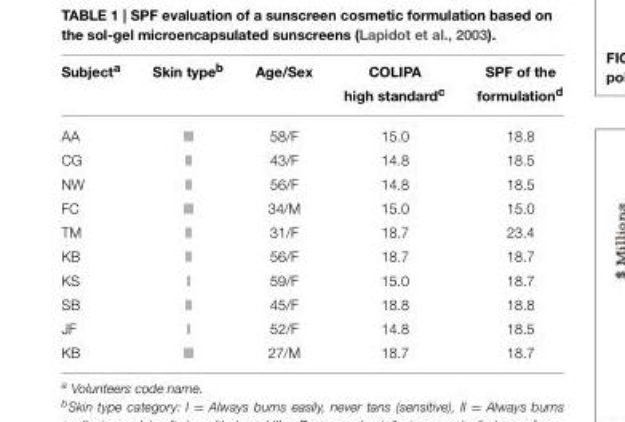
<table><thead><tr><td rowspan="2">Subject<sup>a</sup></td><td rowspan="2">Skin type<sup>b</sup></td><td rowspan="2">Age/Sex</td><td rowspan="2">COLIPA high standard<sup>c</sup></td><td rowspan="2">SPF of the formulation<sup>d</sup></td></tr><tr></tr></thead><tbody><tr><td>AA</td><td>III</td><td>58/F</td><td>15.0</td><td>18.8</td></tr><tr><td>CG</td><td>II</td><td>43/F</td><td>14.8</td><td>18.5</td></tr><tr><td>NW</td><td>II</td><td>56/F</td><td>14.8</td><td>18.5</td></tr><tr><td>FC</td><td>III</td><td>34/M</td><td>15.0</td><td>15.0</td></tr><tr><td>TM</td><td>II</td><td>31/F</td><td>18.7</td><td>23.4</td></tr><tr><td>KB</td><td>II</td><td>56/F</td><td>18.7</td><td>18.7</td></tr><tr><td>KS</td><td>I</td><td>59/F</td><td>15.0</td><td>18.7</td></tr><tr><td>SB</td><td>II</td><td>45/F</td><td>18.8</td><td>18.8</td></tr><tr><td>JF</td><td>I</td><td>52/F</td><td>14.8</td><td>18.5</td></tr><tr><td>KB</td><td>III</td><td>27/M</td><td>18.7</td><td>18.7</td></tr></tbody></table>